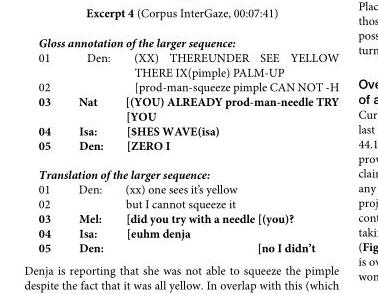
<table><tbody><tr><td colspan="3">Gloss annotation of the larger sequence:</td></tr><tr><td>01</td><td>Den:</td><td>(XX) THEREUNDER SEE YELLOW THERE IX(pimple) PALM-UP</td></tr><tr><td>02</td><td></td><td>[prod-man-squeeze pimple CAN NOT -H</td></tr><tr><td>03</td><td>Nat</td><td>[(YOU) ALREADY prod-man-needle TRY [YOU</td></tr><tr><td>04</td><td>Isa:</td><td>[$HES WAVE(isa)</td></tr><tr><td>05</td><td>Den:</td><td>[ZERO I</td></tr><tr><td colspan="3">Translation of the larger sequence:</td></tr><tr><td>01</td><td>Den:</td><td>(xx) one sees it’s yellow</td></tr><tr><td>02</td><td></td><td>but I cannot squeeze it</td></tr><tr><td>03</td><td>Mel:</td><td>[did you try with a needle [(you)?</td></tr><tr><td>04</td><td>Isa:</td><td>[euhm denja</td></tr><tr><td>05</td><td>Den:</td><td>[no I didn’t</td></tr></tbody></table>